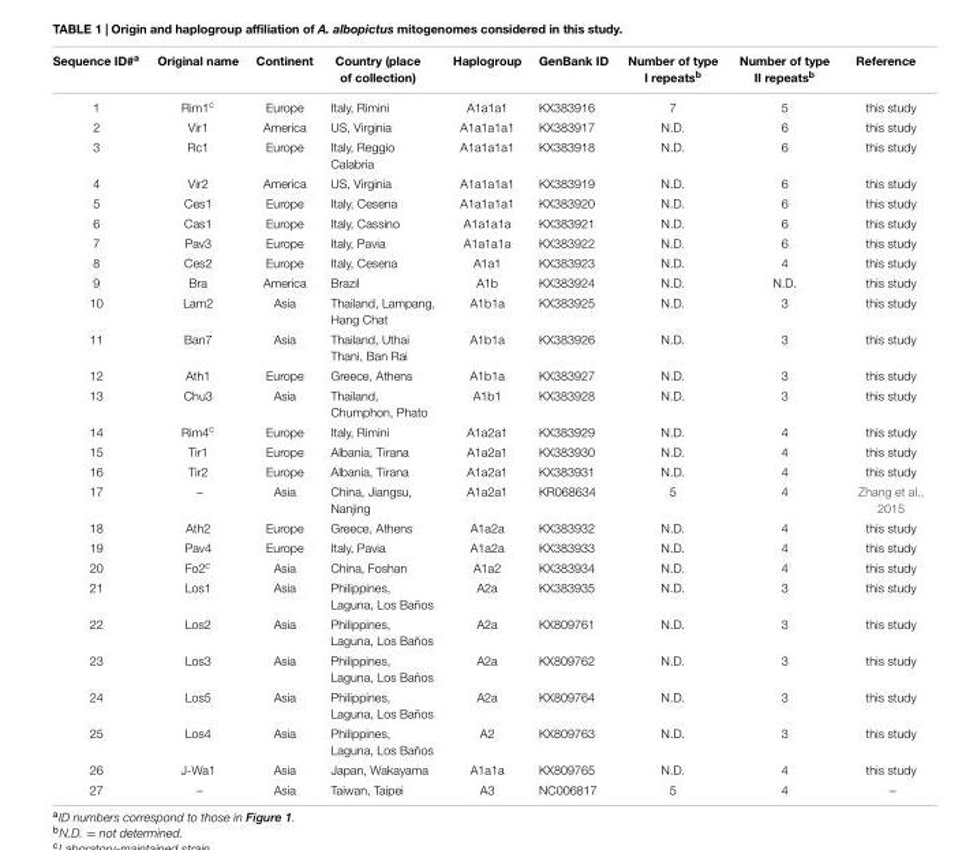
<table><thead><tr><td>Sequence ID#<sup>a</sup></td><td>Original name</td><td>Continent</td><td>Country (place of collection)</td><td>Haplogroup</td><td>GenBank ID</td><td>Number of type I repeats<sup>b</sup></td><td>Number of type II repeats<sup>b</sup></td><td>Reference</td></tr></thead><tbody><tr><td>1</td><td>Rim1<sup>c</sup></td><td>Europe</td><td>Italy, Rimini</td><td>A1a1a1</td><td>KX383916</td><td>7</td><td>5</td><td>this study</td></tr><tr><td>2</td><td>Vir1</td><td>America</td><td>US, Virginia</td><td>A1a1a1a1</td><td>KX383917</td><td>N.D.</td><td>6</td><td>this study</td></tr><tr><td>3</td><td>Rc1</td><td>Europe</td><td>Italy, Reggio Calabria</td><td>A1a1a1a1</td><td>KX383918</td><td>N.D.</td><td>6</td><td>this study</td></tr><tr><td>4</td><td>Vir2</td><td>America</td><td>US, Virginia</td><td>A1a1a1a1</td><td>KX383919</td><td>N.D.</td><td>6</td><td>this study</td></tr><tr><td>5</td><td>Ces1</td><td>Europe</td><td>Italy, Cesena</td><td>A1a1a1a1</td><td>KX383920</td><td>N.D.</td><td>6</td><td>this study</td></tr><tr><td>6</td><td>Cas1</td><td>Europe</td><td>Italy, Cassino</td><td>A1a1a1a</td><td>KX383921</td><td>N.D.</td><td>6</td><td>this study</td></tr><tr><td>7</td><td>Pav3</td><td>Europe</td><td>Italy, Pavia</td><td>A1a1a1a</td><td>KX383922</td><td>N.D.</td><td>6</td><td>this study</td></tr><tr><td>8</td><td>Ces2</td><td>Europe</td><td>Italy, Cesena</td><td>A1a1</td><td>KX383923</td><td>N.D.</td><td>4</td><td>this study</td></tr><tr><td>9</td><td>Bra</td><td>America</td><td>Brazil</td><td>A1b</td><td>KX383924</td><td>N.D.</td><td>N.D.</td><td>this study</td></tr><tr><td>10</td><td>Lam2</td><td>Asia</td><td>Thailand, Lampang, Hang Chat</td><td>A1b1a</td><td>KX383925</td><td>N.D.</td><td>3</td><td>this study</td></tr><tr><td>11</td><td>Ban7</td><td>Asia</td><td>Thailand, Uthai Thani, Ban Rai</td><td>A1b1a</td><td>KX383926</td><td>N.D.</td><td>3</td><td>this study</td></tr><tr><td>12</td><td>Ath1</td><td>Europe</td><td>Greece, Athens</td><td>A1b1a</td><td>KX383927</td><td>N.D.</td><td>3</td><td>this study</td></tr><tr><td>13</td><td>Chu3</td><td>Asia</td><td>Thailand, Chumphon, Phato</td><td>A1b1</td><td>KX383928</td><td>N.D.</td><td>3</td><td>this study</td></tr><tr><td>14</td><td>Rim4<sup>c</sup></td><td>Europe</td><td>Italy, Rimini</td><td>A1a2a1</td><td>KX383929</td><td>N.D.</td><td>4</td><td>this study</td></tr><tr><td>15</td><td>Tir1</td><td>Europe</td><td>Albania, Tirana</td><td>A1a2a1</td><td>KX383930</td><td>N.D.</td><td>4</td><td>this study</td></tr><tr><td>16</td><td>Tir2</td><td>Europe</td><td>Albania, Tirana</td><td>A1a2a1</td><td>KX383931</td><td>N.D.</td><td>4</td><td>this study</td></tr><tr><td>17</td><td>–</td><td>Asia</td><td>China, Jiangsu, Nanjing</td><td>A1a2a1</td><td>KR068634</td><td>5</td><td>4</td><td>Zhang et al., 2015</td></tr><tr><td>18</td><td>Ath2</td><td>Europe</td><td>Greece, Athens</td><td>A1a2a</td><td>KX383932</td><td>N.D.</td><td>4</td><td>this study</td></tr><tr><td>19</td><td>Pav4</td><td>Europe</td><td>Italy, Pavia</td><td>A1a2a</td><td>KX383933</td><td>N.D.</td><td>4</td><td>this study</td></tr><tr><td>20</td><td>Fo2<sup>c</sup></td><td>Asia</td><td>China, Foshan</td><td>A1a2</td><td>KX383934</td><td>N.D.</td><td>4</td><td>this study</td></tr><tr><td>21</td><td>Los1</td><td>Asia</td><td>Philippines, Laguna, Los Baños</td><td>A2a</td><td>KX383935</td><td>N.D.</td><td>3</td><td>this study</td></tr><tr><td>22</td><td>Los2</td><td>Asia</td><td>Philippines, Laguna, Los Baños</td><td>A2a</td><td>KX809761</td><td>N.D.</td><td>3</td><td>this study</td></tr><tr><td>23</td><td>Los3</td><td>Asia</td><td>Philippines, Laguna, Los Baños</td><td>A2a</td><td>KX809762</td><td>N.D.</td><td>3</td><td>this study</td></tr><tr><td>24</td><td>Los5</td><td>Asia</td><td>Philippines, Laguna, Los Baños</td><td>A2a</td><td>KX809764</td><td>N.D.</td><td>3</td><td>this study</td></tr><tr><td>25</td><td>Los4</td><td>Asia</td><td>Philippines, Laguna, Los Baños</td><td>A2</td><td>KX809763</td><td>N.D.</td><td>3</td><td>this study</td></tr><tr><td>26</td><td>J-Wa1</td><td>Asia</td><td>Japan, Wakayama</td><td>A1a1a</td><td>KX809765</td><td>N.D.</td><td>4</td><td>this study</td></tr><tr><td>27</td><td>–</td><td>Asia</td><td>Taiwan, Taipei</td><td>A3</td><td>NC006817</td><td>5</td><td>4</td><td>–</td></tr></tbody></table>